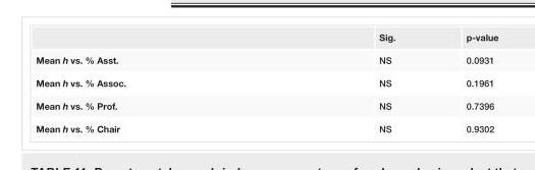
<table><thead><tr><td></td><td>Sig.</td><td>p-value</td></tr></thead><tbody><tr><td>Mean h vs. % Asst.</td><td>NS</td><td>0.0931</td></tr><tr><td>Mean h vs. % Assoc.</td><td>NS</td><td>0.1961</td></tr><tr><td>Mean h vs. % Prof.</td><td>NS</td><td>0.7396</td></tr><tr><td>Mean h vs. % Chair</td><td>NS</td><td>0.9302</td></tr></tbody></table>